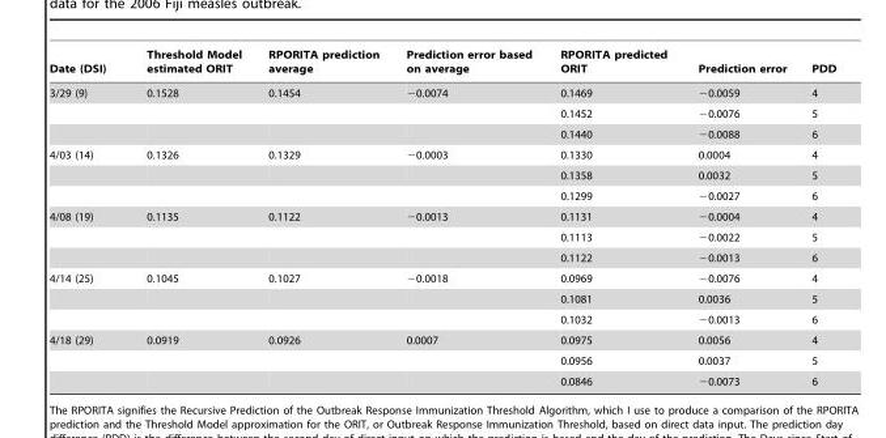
<table><thead><tr><td>Date (DSI)</td><td>Threshold Model estimated ORIT</td><td>RPORITA prediction average</td><td>Prediction error based on average</td><td>RPORITA predicted ORIT</td><td>Prediction error</td><td>PDD</td></tr></thead><tbody><tr><td rowspan="3">3/29 (9)</td><td>0.1528</td><td>0.1454</td><td>−0.0074</td><td>0.1469</td><td>−0.0059</td><td>4</td></tr><tr><td></td><td></td><td></td><td>0.1452</td><td>−0.0076</td><td>5</td></tr><tr><td></td><td></td><td></td><td>0.1440</td><td>−0.0088</td><td>6</td></tr><tr><td rowspan="3">4/03 (14)</td><td>0.1326</td><td>0.1329</td><td>−0.0003</td><td>0.1330</td><td>0.0004</td><td>4</td></tr><tr><td></td><td></td><td></td><td>0.1358</td><td>0.0032</td><td>5</td></tr><tr><td></td><td></td><td></td><td>0.1299</td><td>−0.0027</td><td>6</td></tr><tr><td rowspan="3">4/08 (19)</td><td>0.1135</td><td>0.1122</td><td>−0.0013</td><td>0.1131</td><td>−0.0004</td><td>4</td></tr><tr><td></td><td></td><td></td><td>0.1113</td><td>−0.0022</td><td>5</td></tr><tr><td></td><td></td><td></td><td>0.1122</td><td>−0.0013</td><td>6</td></tr><tr><td rowspan="3">4/14 (25)</td><td>0.1045</td><td>0.1027</td><td>−0.0018</td><td>0.0969</td><td>−0.0076</td><td>4</td></tr><tr><td></td><td></td><td></td><td>0.1081</td><td>0.0036</td><td>5</td></tr><tr><td></td><td></td><td></td><td>0.1032</td><td>−0.0013</td><td>6</td></tr><tr><td rowspan="3">4/18 (29)</td><td>0.0919</td><td>0.0926</td><td>0.0007</td><td>0.0975</td><td>0.0056</td><td>4</td></tr><tr><td></td><td></td><td></td><td>0.0956</td><td>0.0037</td><td>5</td></tr><tr><td></td><td></td><td></td><td>0.0846</td><td>−0.0073</td><td>6</td></tr></tbody></table>